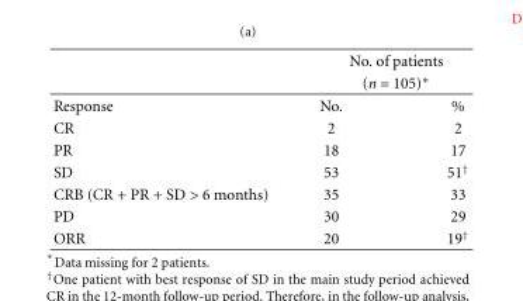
<table><thead><tr><td rowspan="3">Response</td><td rowspan="2" colspan="2">No. of patients (n = 105)∗</td></tr><tr></tr><tr><td>No.</td><td>%</td></tr></thead><tbody><tr><td>CR</td><td>2</td><td>2</td></tr><tr><td>PR</td><td>18</td><td>17</td></tr><tr><td>SD</td><td>53</td><td>51<sup>†</sup></td></tr><tr><td>CRB (CR + PR + SD &gt; 6 months)</td><td>35</td><td>33</td></tr><tr><td>PD</td><td>30</td><td>29</td></tr><tr><td>ORR</td><td>20</td><td>19<sup>†</sup></td></tr></tbody></table>